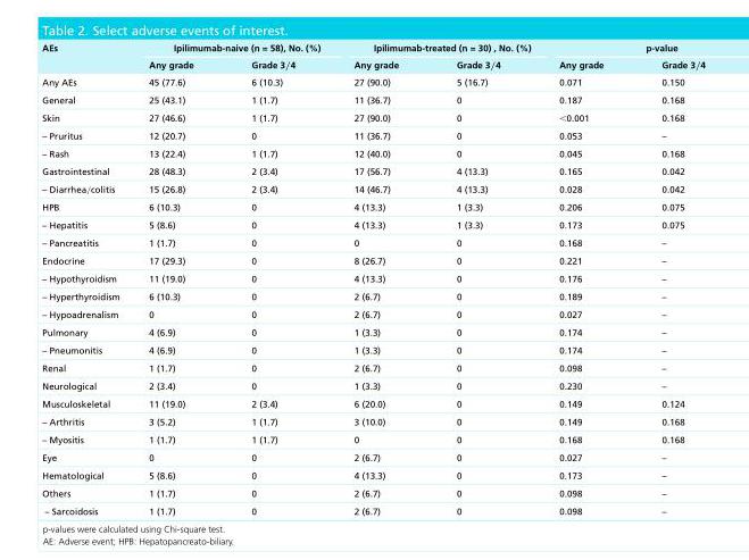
<table><thead><tr><td rowspan="2">AEs</td><td colspan="2">Ipilimumab-naive (n = 58), No. (%)</td><td colspan="2">Ipilimumab-treated (n = 30) , No. (%)</td><td colspan="2">p-value</td></tr><tr><td>Any grade</td><td>Grade 3/4</td><td>Any grade</td><td>Grade 3/4</td><td>Any grade</td><td>Grade 3/4</td></tr></thead><tbody><tr><td>Any AEs</td><td>45 (77.6)</td><td>6 (10.3)</td><td>27 (90.0)</td><td>5 (16.7)</td><td>0.071</td><td>0.150</td></tr><tr><td>General</td><td>25 (43.1)</td><td>1 (1.7)</td><td>11 (36.7)</td><td>0</td><td>0.187</td><td>0.168</td></tr><tr><td>Skin</td><td>27 (46.6)</td><td>1 (1.7)</td><td>27 (90.0)</td><td>0</td><td>&lt;0.001</td><td>0.168</td></tr><tr><td>– Pruritus</td><td>12 (20.7)</td><td>0</td><td>11 (36.7)</td><td>0</td><td>0.053</td><td>–</td></tr><tr><td>– Rash</td><td>13 (22.4)</td><td>1 (1.7)</td><td>12 (40.0)</td><td>0</td><td>0.045</td><td>0.168</td></tr><tr><td>Gastrointestinal</td><td>28 (48.3)</td><td>2 (3.4)</td><td>17 (56.7)</td><td>4 (13.3)</td><td>0.165</td><td>0.042</td></tr><tr><td>– Diarrhea/colitis</td><td>15 (26.8)</td><td>2 (3.4)</td><td>14 (46.7)</td><td>4 (13.3)</td><td>0.028</td><td>0.042</td></tr><tr><td>HPB</td><td>6 (10.3)</td><td>0</td><td>4 (13.3)</td><td>1 (3.3)</td><td>0.206</td><td>0.075</td></tr><tr><td>– Hepatitis</td><td>5 (8.6)</td><td>0</td><td>4 (13.3)</td><td>1 (3.3)</td><td>0.173</td><td>0.075</td></tr><tr><td>– Pancreatitis</td><td>1 (1.7)</td><td>0</td><td>0</td><td>0</td><td>0.168</td><td>–</td></tr><tr><td>Endocrine</td><td>17 (29.3)</td><td>0</td><td>8 (26.7)</td><td>0</td><td>0.221</td><td>–</td></tr><tr><td>– Hypothyroidism</td><td>11 (19.0)</td><td>0</td><td>4 (13.3)</td><td>0</td><td>0.176</td><td>–</td></tr><tr><td>– Hyperthyroidism</td><td>6 (10.3)</td><td>0</td><td>2 (6.7)</td><td>0</td><td>0.189</td><td>–</td></tr><tr><td>– Hypoadrenalism</td><td>0</td><td>0</td><td>2 (6.7)</td><td>0</td><td>0.027</td><td>–</td></tr><tr><td>Pulmonary</td><td>4 (6.9)</td><td>0</td><td>1 (3.3)</td><td>0</td><td>0.174</td><td>–</td></tr><tr><td>– Pneumonitis</td><td>4 (6.9)</td><td>0</td><td>1 (3.3)</td><td>0</td><td>0.174</td><td>–</td></tr><tr><td>Renal</td><td>1 (1.7)</td><td>0</td><td>2 (6.7)</td><td>0</td><td>0.098</td><td>–</td></tr><tr><td>Neurological</td><td>2 (3.4)</td><td>0</td><td>1 (3.3)</td><td>0</td><td>0.230</td><td>–</td></tr><tr><td>Musculoskeletal</td><td>11 (19.0)</td><td>2 (3.4)</td><td>6 (20.0)</td><td>0</td><td>0.149</td><td>0.124</td></tr><tr><td>– Arthritis</td><td>3 (5.2)</td><td>1 (1.7)</td><td>3 (10.0)</td><td>0</td><td>0.149</td><td>0.168</td></tr><tr><td>– Myositis</td><td>1 (1.7)</td><td>1 (1.7)</td><td>0</td><td>0</td><td>0.168</td><td>0.168</td></tr><tr><td>Eye</td><td>0</td><td>0</td><td>2 (6.7)</td><td>0</td><td>0.027</td><td>–</td></tr><tr><td>Hematological</td><td>5 (8.6)</td><td>0</td><td>4 (13.3)</td><td>0</td><td>0.173</td><td>–</td></tr><tr><td>Others</td><td>1 (1.7)</td><td>0</td><td>2 (6.7)</td><td>0</td><td>0.098</td><td>–</td></tr><tr><td>– Sarcoidosis</td><td>1 (1.7)</td><td>0</td><td>2 (6.7)</td><td>0</td><td>0.098</td><td>–</td></tr></tbody></table>